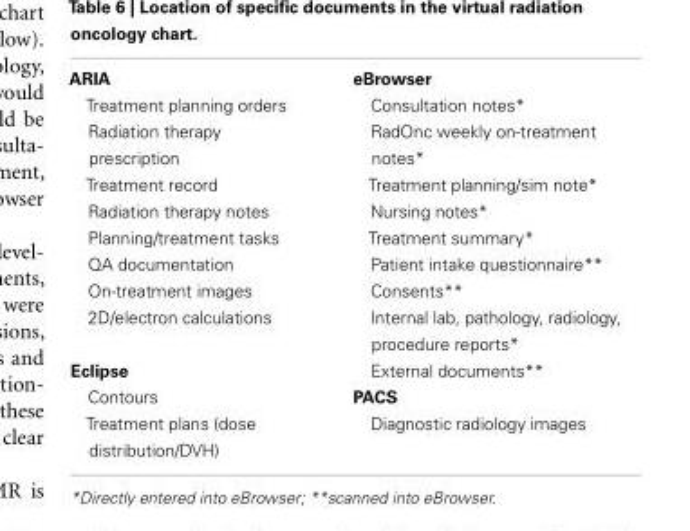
<table><tbody><tr><td>ARIA</td><td>eBrowser</td></tr><tr><td>Treatment planning orders</td><td>Consultation notes*</td></tr><tr><td>Radiation therapy prescription</td><td>RadOnc weekly on-treatment notes*</td></tr><tr><td>Treatment record</td><td>Treatment planning/sim note*</td></tr><tr><td>Radiation therapy notes</td><td>Nursing notes*</td></tr><tr><td>Planning/treatment tasks</td><td>Treatment summary*</td></tr><tr><td>QA documentation</td><td>Patient intake questionnaire**</td></tr><tr><td>On-treatment images</td><td>Consents**</td></tr><tr><td>2D/electron calculations</td><td>Internal lab, pathology, radiology, procedure reports*</td></tr><tr><td>Eclipse</td><td>External documents**</td></tr><tr><td>Contours</td><td>PACS</td></tr><tr><td>Treatment plans (dose distribution/DVH)</td><td>Diagnostic radiology images</td></tr></tbody></table>